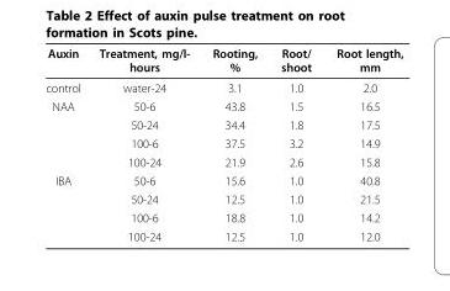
<table><thead><tr><td>Auxin</td><td>Treatment, mg/l- hours</td><td>Rooting, %</td><td>Root/ shoot</td><td>Root length, mm</td></tr></thead><tbody><tr><td>control</td><td>water-24</td><td>3.1</td><td>1.0</td><td>2.0</td></tr><tr><td rowspan="4">NAA</td><td>50-6</td><td>43.8</td><td>1.5</td><td>16.5</td></tr><tr><td>50-24</td><td>34.4</td><td>1.8</td><td>17.5</td></tr><tr><td>100-6</td><td>37.5</td><td>3.2</td><td>14.9</td></tr><tr><td>100-24</td><td>21.9</td><td>2.6</td><td>15.8</td></tr><tr><td rowspan="4">IBA</td><td>50-6</td><td>15.6</td><td>1.0</td><td>40.8</td></tr><tr><td>50-24</td><td>12.5</td><td>1.0</td><td>21.5</td></tr><tr><td>100-6</td><td>18.8</td><td>1.0</td><td>14.2</td></tr><tr><td>100-24</td><td>12.5</td><td>1.0</td><td>12.0</td></tr></tbody></table>